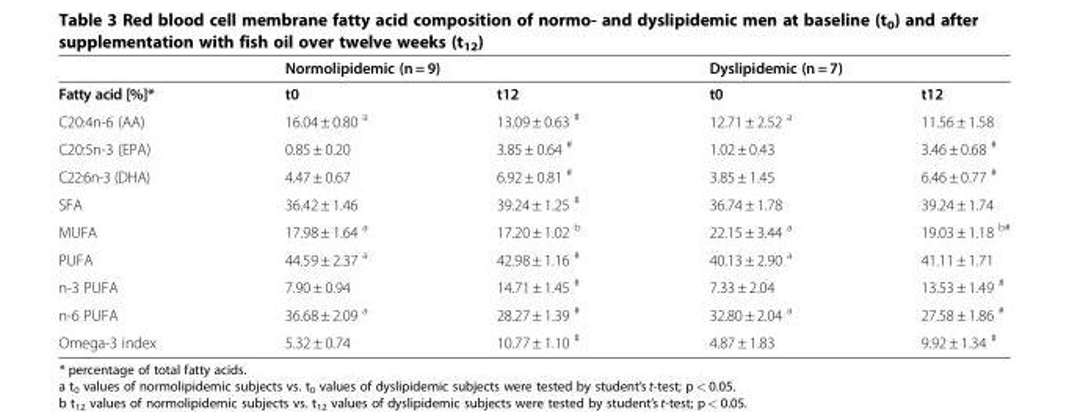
<table><thead><tr><td rowspan="2">Fatty acid [%]*</td><td colspan="2">Normolipidemic (n = 9)</td><td colspan="2">Dyslipidemic (n = 7)</td></tr><tr><td>t0</td><td>t12</td><td>t0</td><td>t12</td></tr></thead><tbody><tr><td>C20:4n-6 (AA)</td><td>16.04 ± 0.80 <sup>a</sup></td><td>13.09 ± 0.63 <sup>#</sup></td><td>12.71 ± 2.52 <sup>a</sup></td><td>11.56 ± 1.58</td></tr><tr><td>C20:5n-3 (EPA)</td><td>0.85 ± 0.20</td><td>3.85 ± 0.64 <sup>#</sup></td><td>1.02 ± 0.43</td><td>3.46 ± 0.68 <sup>#</sup></td></tr><tr><td>C22:6n-3 (DHA)</td><td>4.47 ± 0.67</td><td>6.92 ± 0.81 <sup>#</sup></td><td>3.85 ± 1.45</td><td>6.46 ± 0.77 <sup>#</sup></td></tr><tr><td>SFA</td><td>36.42 ± 1.46</td><td>39.24 ± 1.25 <sup>#</sup></td><td>36.74 ± 1.78</td><td>39.24 ± 1.74</td></tr><tr><td>MUFA</td><td>17.98 ± 1.64 <sup>a</sup></td><td>17.20 ± 1.02 <sup>b</sup></td><td>22.15 ± 3.44 <sup>a</sup></td><td>19.03 ± 1.18 <sup>b#</sup></td></tr><tr><td>PUFA</td><td>44.59 ± 2.37 <sup>a</sup></td><td>42.98 ± 1.16 <sup>#</sup></td><td>40.13 ± 2.90 <sup>a</sup></td><td>41.11 ± 1.71</td></tr><tr><td>n-3 PUFA</td><td>7.90 ± 0.94</td><td>14.71 ± 1.45 <sup>#</sup></td><td>7.33 ± 2.04</td><td>13.53 ± 1.49 <sup>#</sup></td></tr><tr><td>n-6 PUFA</td><td>36.68 ± 2.09 <sup>a</sup></td><td>28.27 ± 1.39 <sup>#</sup></td><td>32.80 ± 2.04 <sup>a</sup></td><td>27.58 ± 1.86 <sup>#</sup></td></tr><tr><td>Omega-3 index</td><td>5.32 ± 0.74</td><td>10.77 ± 1.10 <sup>#</sup></td><td>4.87 ± 1.83</td><td>9.92 ± 1.34 <sup>#</sup></td></tr></tbody></table>